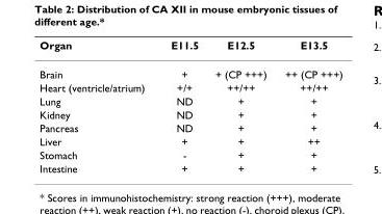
<table><thead><tr><td>Organ</td><td>E11.5</td><td>E12.5</td><td>E13.5</td></tr></thead><tbody><tr><td>Brain</td><td>+</td><td>+ (CP +++)</td><td>++ (CP +++)</td></tr><tr><td>Heart (ventricle/atrium)</td><td>+/+</td><td>++/++</td><td>++/++</td></tr><tr><td>Lung</td><td>ND</td><td>+</td><td>+</td></tr><tr><td>Kidney</td><td>ND</td><td>+</td><td>+</td></tr><tr><td>Pancreas</td><td>ND</td><td>+</td><td>+</td></tr><tr><td>Liver</td><td>+</td><td>+</td><td>++</td></tr><tr><td>Stomach</td><td>-</td><td>+</td><td>+</td></tr><tr><td>Intestine</td><td>+</td><td>+</td><td>+</td></tr></tbody></table>